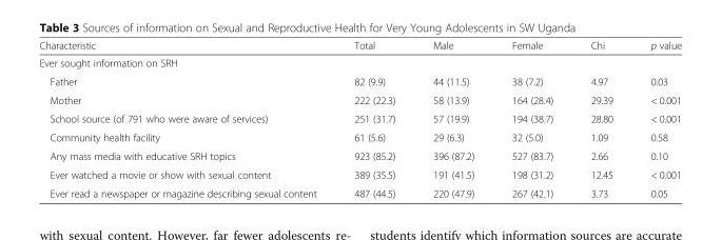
<table><thead><tr><td>Characteristic</td><td>Total</td><td>Male</td><td>Female</td><td>Chi</td><td>p value</td></tr></thead><tbody><tr><td colspan="6">Ever sought information on SRH</td></tr><tr><td>Father</td><td>82 (9.9)</td><td>44 (11.5)</td><td>38 (7.2)</td><td>4.97</td><td>0.03</td></tr><tr><td>Mother</td><td>222 (22.3)</td><td>58 (13.9)</td><td>164 (28.4)</td><td>29.39</td><td>&lt; 0.001</td></tr><tr><td>School source (of 791 who were aware of services)</td><td>251 (31.7)</td><td>57 (19.9)</td><td>194 (38.7)</td><td>28.80</td><td>&lt; 0.001</td></tr><tr><td>Community health facility</td><td>61 (5.6)</td><td>29 (6.3)</td><td>32 (5.0)</td><td>1.09</td><td>0.58</td></tr><tr><td>Any mass media with educative SRH topics</td><td>923 (85.2)</td><td>396 (87.2)</td><td>527 (83.7)</td><td>2.66</td><td>0.10</td></tr><tr><td>Ever watched a movie or show with sexual content</td><td>389 (35.5)</td><td>191 (41.5)</td><td>198 (31.2)</td><td>12.45</td><td>&lt; 0.001</td></tr><tr><td>Ever read a newspaper or magazine describing sexual content</td><td>487 (44.5)</td><td>220 (47.9)</td><td>267 (42.1)</td><td>3.73</td><td>0.05</td></tr></tbody></table>